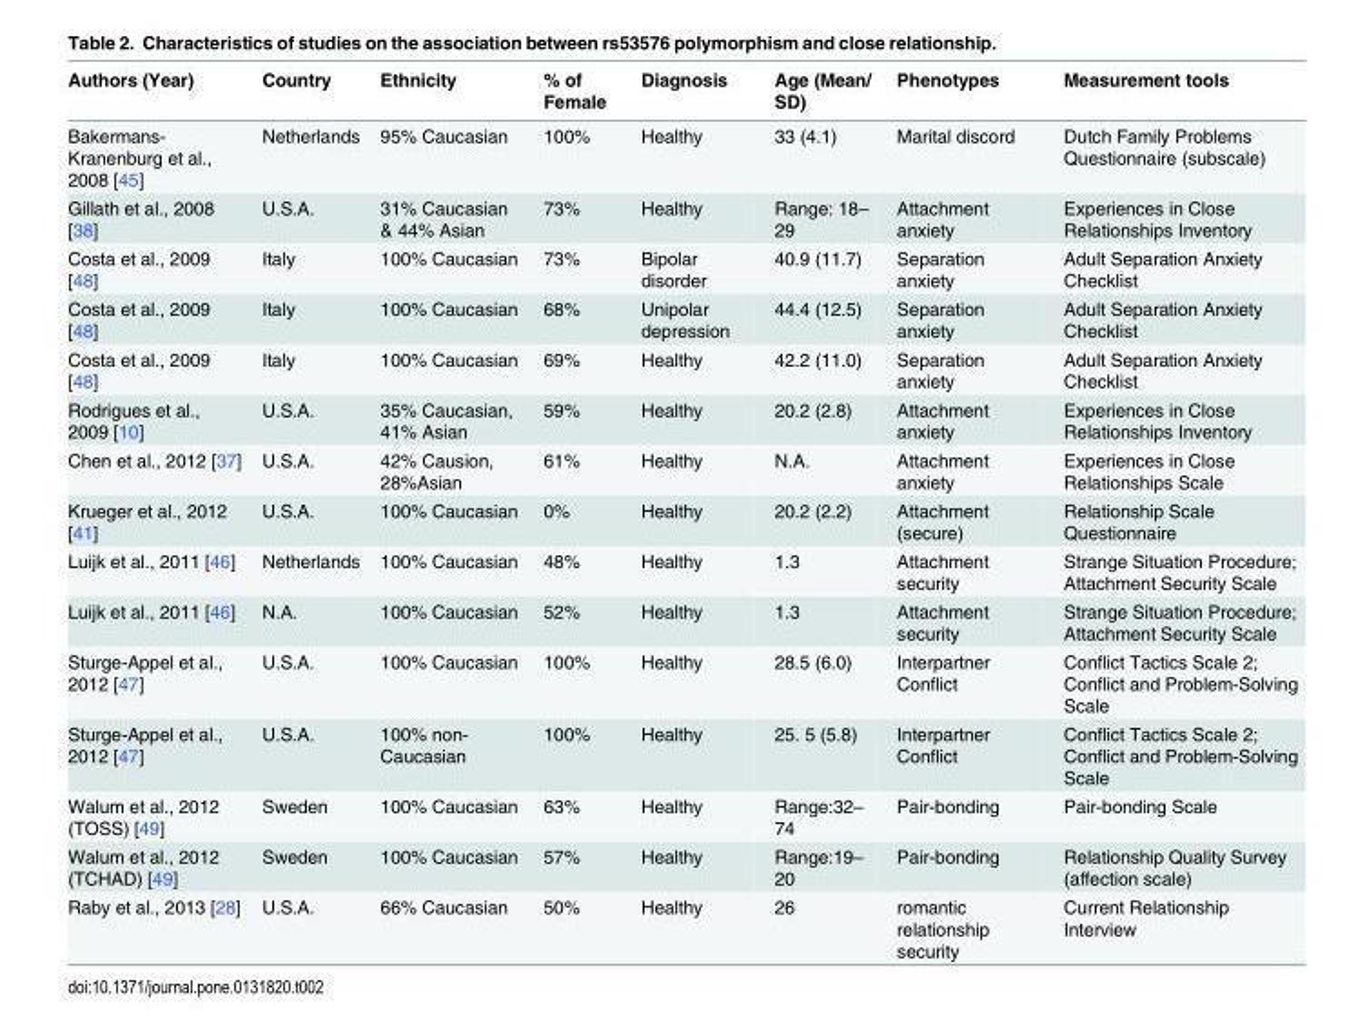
<table><thead><tr><td>Authors (Year)</td><td>Country</td><td>Ethnicity</td><td>% of Female</td><td>Diagnosis</td><td>Age (Mean/ SD)</td><td>Phenotypes</td><td>Measurement tools</td></tr></thead><tbody><tr><td>Bakermans- Kranenburg et al., 2008 [45]</td><td>Netherlands</td><td>95% Caucasian</td><td>100%</td><td>Healthy</td><td>33 (4.1)</td><td>Marital discord</td><td>Dutch Family Problems Questionnaire (subscale)</td></tr><tr><td>Gillath et al., 2008 [38]</td><td>U.S.A.</td><td>31% Caucasian &amp; 44% Asian</td><td>73%</td><td>Healthy</td><td>Range: 18– 29</td><td>Attachment anxiety</td><td>Experiences in Close Relationships Inventory</td></tr><tr><td>Costa et al., 2009 [48]</td><td>Italy</td><td>100% Caucasian</td><td>73%</td><td>Bipolar disorder</td><td>40.9 (11.7)</td><td>Separation anxiety</td><td>Adult Separation Anxiety Checklist</td></tr><tr><td>Costa et al., 2009 [48]</td><td>Italy</td><td>100% Caucasian</td><td>68%</td><td>Unipolar depression</td><td>44.4 (12.5)</td><td>Separation anxiety</td><td>Adult Separation Anxiety Checklist</td></tr><tr><td>Costa et al., 2009 [48]</td><td>Italy</td><td>100% Caucasian</td><td>69%</td><td>Healthy</td><td>42.2 (11.0)</td><td>Separation anxiety</td><td>Adult Separation Anxiety Checklist</td></tr><tr><td>Rodrigues et al., 2009 [10]</td><td>U.S.A.</td><td>35% Caucasian, 41% Asian</td><td>59%</td><td>Healthy</td><td>20.2 (2.8)</td><td>Attachment anxiety</td><td>Experiences in Close Relationships Inventory</td></tr><tr><td>Chen et al., 2012 [37]</td><td>U.S.A.</td><td>42% Causion, 28%Asian</td><td>61%</td><td>Healthy</td><td>N.A.</td><td>Attachment anxiety</td><td>Experiences in Close Relationships Scale</td></tr><tr><td>Krueger et al., 2012 [41]</td><td>U.S.A.</td><td>100% Caucasian</td><td>0%</td><td>Healthy</td><td>20.2 (2.2)</td><td>Attachment (secure)</td><td>Relationship Scale Questionnaire</td></tr><tr><td>Luijk et al., 2011 [46]</td><td>Netherlands</td><td>100% Caucasian</td><td>48%</td><td>Healthy</td><td>1.3</td><td>Attachment security</td><td>Strange Situation Procedure; Attachment Security Scale</td></tr><tr><td>Luijk et al., 2011 [46]</td><td>N.A.</td><td>100% Caucasian</td><td>52%</td><td>Healthy</td><td>1.3</td><td>Attachment security</td><td>Strange Situation Procedure; Attachment Security Scale</td></tr><tr><td>Sturge-Appel et al., 2012 [47]</td><td>U.S.A.</td><td>100% Caucasian</td><td>100%</td><td>Healthy</td><td>28.5 (6.0)</td><td>Interpartner Conflict</td><td>Conflict Tactics Scale 2; Conflict and Problem-Solving Scale</td></tr><tr><td>Sturge-Appel et al., 2012 [47]</td><td>U.S.A.</td><td>100% non- Caucasian</td><td>100%</td><td>Healthy</td><td>25. 5 (5.8)</td><td>Interpartner Conflict</td><td>Conflict Tactics Scale 2; Conflict and Problem-Solving Scale</td></tr><tr><td>Walum et al., 2012 (TOSS) [49]</td><td>Sweden</td><td>100% Caucasian</td><td>63%</td><td>Healthy</td><td>Range:32– 74</td><td>Pair-bonding</td><td>Pair-bonding Scale</td></tr><tr><td>Walum et al., 2012 (TCHAD) [49]</td><td>Sweden</td><td>100% Caucasian</td><td>57%</td><td>Healthy</td><td>Range:19– 20</td><td>Pair-bonding</td><td>Relationship Quality Survey (affection scale)</td></tr><tr><td>Raby et al., 2013 [28]</td><td>U.S.A.</td><td>66% Caucasian</td><td>50%</td><td>Healthy</td><td>26</td><td>romantic relationship security</td><td>Current Relationship Interview</td></tr></tbody></table>